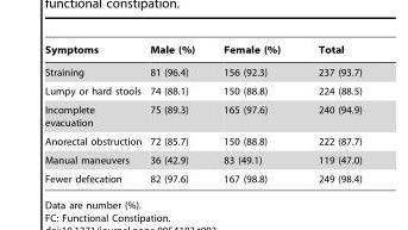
<table><thead><tr><td>Symptoms</td><td>Male (%)</td><td>Female (%)</td><td>Total</td></tr></thead><tbody><tr><td>Straining</td><td>81 (96.4)</td><td>156 (92.3)</td><td>237 (93.7)</td></tr><tr><td>Lumpy or hard stools</td><td>74 (88.1)</td><td>150 (88.8)</td><td>224 (88.5)</td></tr><tr><td>Incomplete evacuation</td><td>75 (89.3)</td><td>165 (97.6)</td><td>240 (94.9)</td></tr><tr><td>Anorectal obstruction</td><td>72 (85.7)</td><td>150 (88.8)</td><td>222 (87.7)</td></tr><tr><td>Manual maneuvers</td><td>36 (42.9)</td><td>83 (49.1)</td><td>119 (47.0)</td></tr><tr><td>Fewer defecation</td><td>82 (97.6)</td><td>167 (98.8)</td><td>249 (98.4)</td></tr></tbody></table>